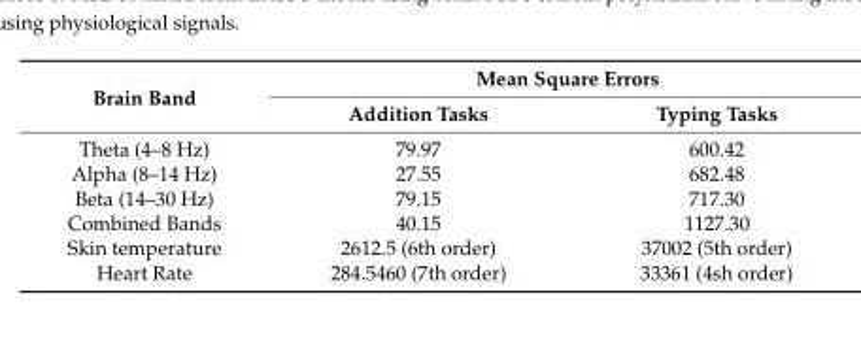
<table><thead><tr><td rowspan="2">Brain Band</td><td colspan="2">Mean Square Errors</td></tr><tr><td>Addition Tasks</td><td>Typing Tasks</td></tr></thead><tbody><tr><td>Theta (4–8 Hz)</td><td>79.97</td><td>600.42</td></tr><tr><td>Alpha (8–14 Hz)</td><td>27.55</td><td>682.48</td></tr><tr><td>Beta (14–30 Hz)</td><td>79.15</td><td>717.30</td></tr><tr><td>Combined Bands</td><td>40.15</td><td>1127.30</td></tr><tr><td>Skin temperature</td><td>2612.5 (6th order)</td><td>37002 (5th order)</td></tr><tr><td>Heart Rate</td><td>284.5460 (7th order)</td><td>33361 (4sh order)</td></tr></tbody></table>